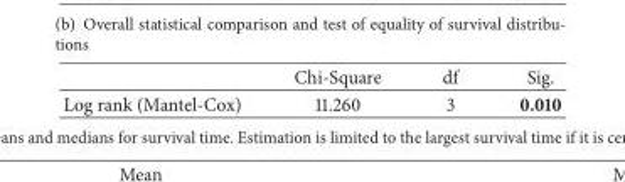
<table><thead><tr><td></td><td>Chi-Square</td><td>df</td><td>Sig.</td></tr></thead><tbody><tr><td>Log rank (Mantel-Cox)</td><td>11.260</td><td>3</td><td>0.010</td></tr></tbody></table>